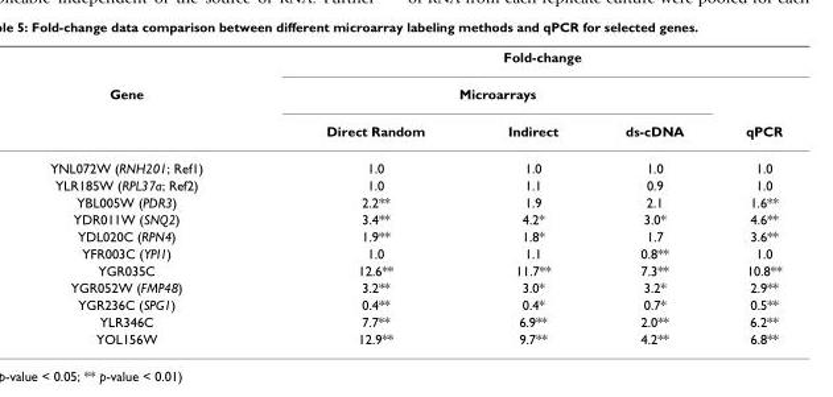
<table><thead><tr><td rowspan="3">Gene</td><td colspan="4">Fold-change</td></tr><tr><td colspan="3">Microarrays</td><td rowspan="2">qPCR</td></tr><tr><td>Direct Random</td><td>Indirect</td><td>ds-cDNA</td></tr></thead><tbody><tr><td>YNL072W (RNH201; Ref1)</td><td>1.0</td><td>1.0</td><td>1.0</td><td>1.0</td></tr><tr><td>YLR185W (RPL37a; Ref2)</td><td>1.0</td><td>1.1</td><td>0.9</td><td>1.0</td></tr><tr><td>YBL005W (PDR3)</td><td>2.2**</td><td>1.9</td><td>2.1</td><td>1.6**</td></tr><tr><td>YDR011W (SNQ2)</td><td>3.4**</td><td>4.2*</td><td>3.0*</td><td>4.6**</td></tr><tr><td>YDL020C (RPN4)</td><td>1.9**</td><td>1.8*</td><td>1.7</td><td>3.6**</td></tr><tr><td>YFR003C (YPI1)</td><td>1.0</td><td>1.1</td><td>0.8**</td><td>1.0</td></tr><tr><td>YGR035C</td><td>12.6**</td><td>11.7**</td><td>7.3**</td><td>10.8**</td></tr><tr><td>YGR052W (FMP48)</td><td>3.2**</td><td>3.0*</td><td>3.2*</td><td>2.9**</td></tr><tr><td>YGR236C (SPG1)</td><td>0.4**</td><td>0.4*</td><td>0.7*</td><td>0.5**</td></tr><tr><td>YLR346C</td><td>7.7**</td><td>6.9**</td><td>2.0**</td><td>6.2**</td></tr><tr><td>YOL156W</td><td>12.9**</td><td>9.7**</td><td>4.2**</td><td>6.8**</td></tr></tbody></table>